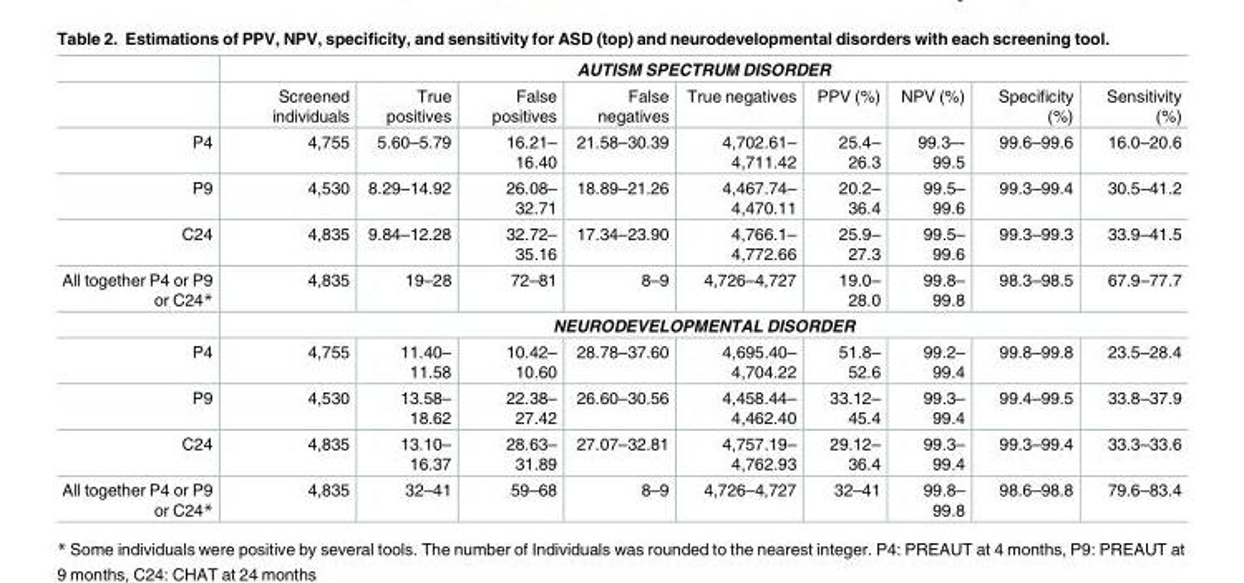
<table><thead><tr><td rowspan="2"></td><td colspan="9">AUTISM SPECTRUM DISORDER</td></tr><tr><td>Screened individuals</td><td>True positives</td><td>False positives</td><td>False negatives</td><td>True negatives</td><td>PPV (%)</td><td>NPV (%)</td><td>Specificity (%)</td><td>Sensitivity (%)</td></tr></thead><tbody><tr><td>P4</td><td>4,755</td><td>5.60–5.79</td><td>16.21– 16.40</td><td>21.58–30.39</td><td>4,702.61– 4,711.42</td><td>25.4– 26.3</td><td>99.3–- 99.5</td><td>99.6–99.6</td><td>16.0–20.6</td></tr><tr><td>P9</td><td>4,530</td><td>8.29–14.92</td><td>26.08– 32.71</td><td>18.89–21.26</td><td>4,467.74– 4,470.11</td><td>20.2– 36.4</td><td>99.5– 99.6</td><td>99.3–99.4</td><td>30.5–41.2</td></tr><tr><td>C24</td><td>4,835</td><td>9.84–12.28</td><td>32.72– 35.16</td><td>17.34–23.90</td><td>4,766.1– 4,772.66</td><td>25.9– 27.3</td><td>99.5– 99.6</td><td>99.3–99.3</td><td>33.9–41.5</td></tr><tr><td rowspan="2">All together P4 or P9 or C24*</td><td>4,835</td><td>19–28</td><td>72–81</td><td>8–9</td><td>4,726–4,727</td><td>19.0– 28.0</td><td>99.8– 99.8</td><td>98.3–98.5</td><td>67.9–77.7</td></tr><tr><td colspan="9">NEURODEVELOPMENTAL DISORDER</td></tr><tr><td>P4</td><td>4,755</td><td>11.40– 11.58</td><td>10.42– 10.60</td><td>28.78–37.60</td><td>4,695.40– 4,704.22</td><td>51.8– 52.6</td><td>99.2– 99.4</td><td>99.8–99.8</td><td>23.5–28.4</td></tr><tr><td>P9</td><td>4,530</td><td>13.58– 18.62</td><td>22.38– 27.42</td><td>26.60–30.56</td><td>4,458.44– 4,462.40</td><td>33.12– 45.4</td><td>99.3– 99.4</td><td>99.4–99.5</td><td>33.8–37.9</td></tr><tr><td>C24</td><td>4,835</td><td>13.10– 16.37</td><td>28.63– 31.89</td><td>27.07–32.81</td><td>4,757.19– 4,762.93</td><td>29.12– 36.4</td><td>99.3– 99.4</td><td>99.3–99.4</td><td>33.3–33.6</td></tr><tr><td>All together P4 or P9 or C24*</td><td>4,835</td><td>32–41</td><td>59–68</td><td>8–9</td><td>4,726–4,727</td><td>32–41</td><td>99.8– 99.8</td><td>98.6–98.8</td><td>79.6–83.4</td></tr></tbody></table>